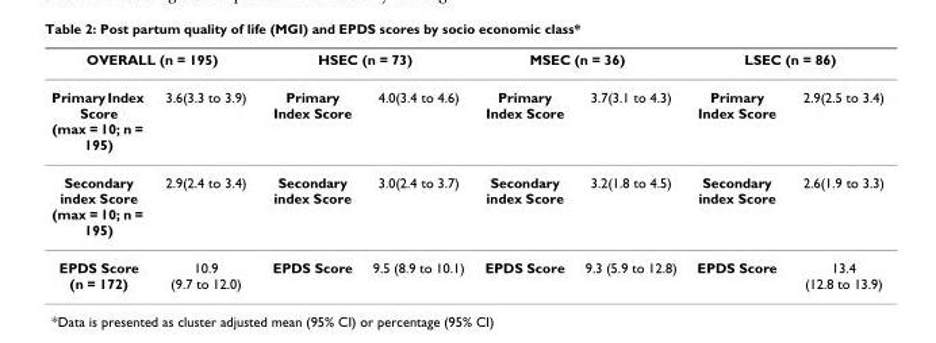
<table><thead><tr><td colspan="2">OVERALL (n = 195)</td><td colspan="2">HSEC (n = 73)</td><td colspan="2">MSEC (n = 36)</td><td colspan="2">LSEC (n = 86)</td></tr><tr><td>Primary Index Score (max = 10; n = 195)</td><td>3.6(3.3 to 3.9)</td><td>Primary Index Score</td><td>4.0(3.4 to 4.6)</td><td>Primary Index Score</td><td>3.7(3.1 to 4.3)</td><td>Primary Index Score</td><td>2.9(2.5 to 3.4)</td></tr></thead><tbody><tr><td>Secondary index Score (max = 10; n = 195)</td><td>2.9(2.4 to 3.4)</td><td>Secondary index Score</td><td>3.0(2.4 to 3.7)</td><td>Secondary index Score</td><td>3.2(1.8 to 4.5)</td><td>Secondary index Score</td><td>2.6(1.9 to 3.3)</td></tr><tr><td>EPDS Score (n = 172)</td><td>10.9 (9.7 to 12.0)</td><td>EPDS Score</td><td>9.5 (8.9 to 10.1)</td><td>EPDS Score</td><td>9.3 (5.9 to 12.8)</td><td>EPDS Score</td><td>13.4 (12.8 to 13.9)</td></tr></tbody></table>